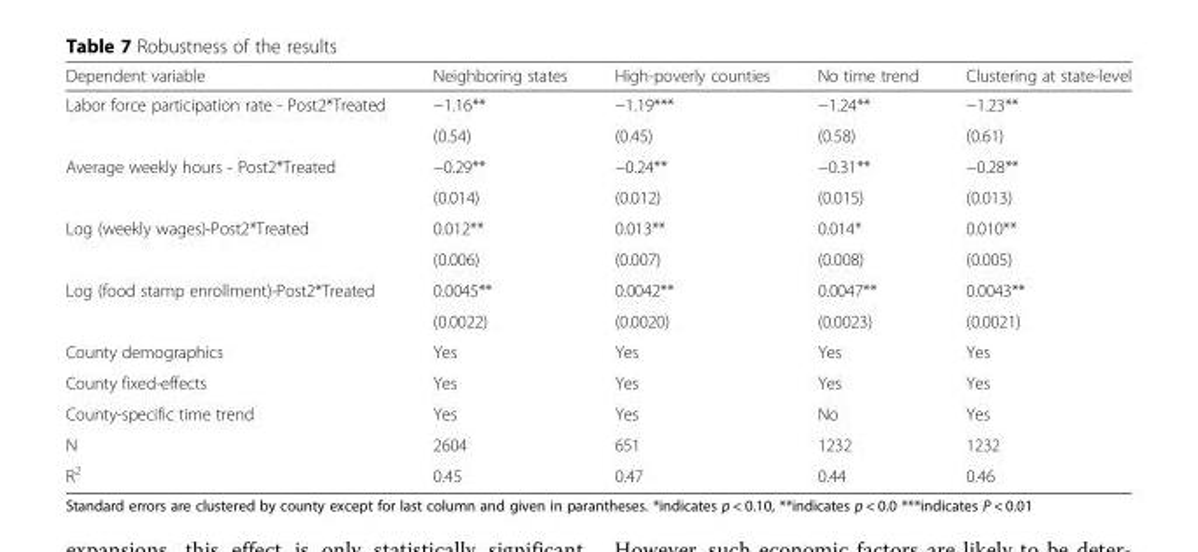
<table><thead><tr><td>Dependent variable</td><td>Neighboring states</td><td>High-poverly counties</td><td>No time trend</td><td>Clustering at state-level</td></tr></thead><tbody><tr><td rowspan="2">Labor force participation rate - Post2*Treated</td><td>−1.16**</td><td>−1.19***</td><td>−1.24**</td><td>−1.23**</td></tr><tr><td>(0.54)</td><td>(0.45)</td><td>(0.58)</td><td>(0.61)</td></tr><tr><td rowspan="2">Average weekly hours - Post2*Treated</td><td>−0.29**</td><td>−0.24**</td><td>−0.31**</td><td>−0.28**</td></tr><tr><td>(0.014)</td><td>(0.012)</td><td>(0.015)</td><td>(0.013)</td></tr><tr><td rowspan="2">Log (weekly wages)-Post2*Treated</td><td>0.012**</td><td>0.013**</td><td>0.014*</td><td>0.010**</td></tr><tr><td>(0.006)</td><td>(0.007)</td><td>(0.008)</td><td>(0.005)</td></tr><tr><td rowspan="2">Log (food stamp enrollment)-Post2*Treated</td><td>0.0045**</td><td>0.0042**</td><td>0.0047**</td><td>0.0043**</td></tr><tr><td>(0.0022)</td><td>(0.0020)</td><td>(0.0023)</td><td>(0.0021)</td></tr><tr><td>County demographics</td><td>Yes</td><td>Yes</td><td>Yes</td><td>Yes</td></tr><tr><td>County fixed-effects</td><td>Yes</td><td>Yes</td><td>Yes</td><td>Yes</td></tr><tr><td>County-specific time trend</td><td>Yes</td><td>Yes</td><td>No</td><td>Yes</td></tr><tr><td>N</td><td>2604</td><td>651</td><td>1232</td><td>1232</td></tr><tr><td>R<sup>2</sup></td><td>0.45</td><td>0.47</td><td>0.44</td><td>0.46</td></tr></tbody></table>